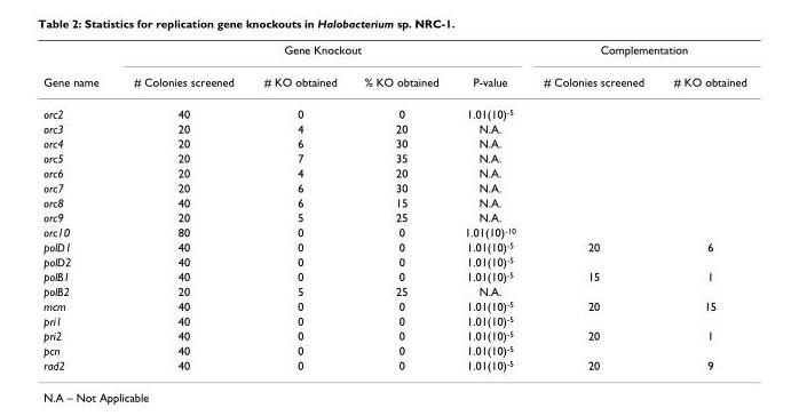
<table><thead><tr><td rowspan="2">Gene name</td><td colspan="4">Gene Knockout</td><td colspan="2">Complementation</td></tr><tr><td># Colonies screened</td><td># KO obtained</td><td>% KO obtained</td><td>P-value</td><td># Colonies screened</td><td># KO obtained</td></tr></thead><tbody><tr><td>orc2</td><td>40</td><td>0</td><td>0</td><td>1.01(10)<sup>-5</sup></td><td></td><td></td></tr><tr><td>orc3</td><td>20</td><td>4</td><td>20</td><td>N.A.</td><td></td><td></td></tr><tr><td>orc4</td><td>20</td><td>6</td><td>30</td><td>N.A.</td><td></td><td></td></tr><tr><td>orc5</td><td>20</td><td>7</td><td>35</td><td>N.A.</td><td></td><td></td></tr><tr><td>orc6</td><td>20</td><td>4</td><td>20</td><td>N.A.</td><td></td><td></td></tr><tr><td>orc7</td><td>20</td><td>6</td><td>30</td><td>N.A.</td><td></td><td></td></tr><tr><td>orc8</td><td>40</td><td>6</td><td>15</td><td>N.A.</td><td></td><td></td></tr><tr><td>orc9</td><td>20</td><td>5</td><td>25</td><td>N.A.</td><td></td><td></td></tr><tr><td>orc10</td><td>80</td><td>0</td><td>0</td><td>1.01(10)<sup>-10</sup></td><td></td><td></td></tr><tr><td>polD1</td><td>40</td><td>0</td><td>0</td><td>1.01(10)<sup>-5</sup></td><td>20</td><td>6</td></tr><tr><td>polD2</td><td>40</td><td>0</td><td>0</td><td>1.01(10)<sup>-5</sup></td><td></td><td></td></tr><tr><td>polB1</td><td>40</td><td>0</td><td>0</td><td>1.01(10)<sup>-5</sup></td><td>15</td><td>1</td></tr><tr><td>polB2</td><td>20</td><td>5</td><td>25</td><td>N.A.</td><td></td><td></td></tr><tr><td>mcm</td><td>40</td><td>0</td><td>0</td><td>1.01(10)<sup>-5</sup></td><td>20</td><td>15</td></tr><tr><td>pri1</td><td>40</td><td>0</td><td>0</td><td>1.01(10)<sup>-5</sup></td><td></td><td></td></tr><tr><td>pri2</td><td>40</td><td>0</td><td>0</td><td>1.01(10)<sup>-5</sup></td><td>20</td><td>1</td></tr><tr><td>pcn</td><td>40</td><td>0</td><td>0</td><td>1.01(10)<sup>-5</sup></td><td></td><td></td></tr><tr><td>rad2</td><td>40</td><td>0</td><td>0</td><td>1.01(10)<sup>-5</sup></td><td>20</td><td>9</td></tr></tbody></table>